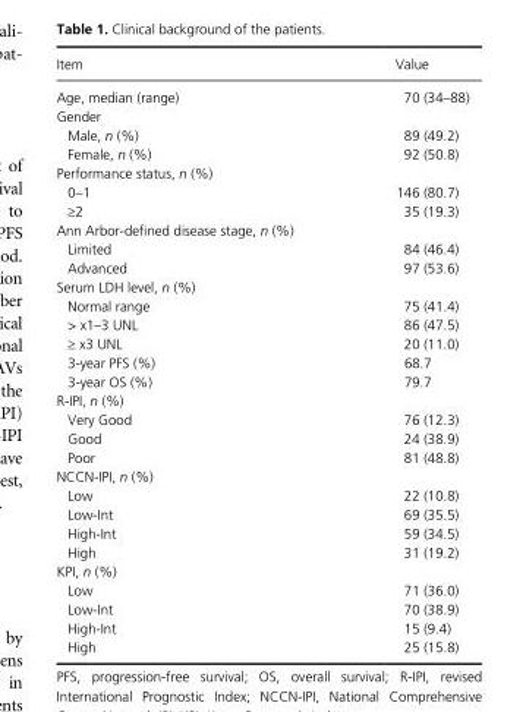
<table><thead><tr><td>Item</td><td>Value</td></tr></thead><tbody><tr><td>Age, median (range)</td><td>70 (34–88)</td></tr><tr><td colspan="2">Gender</td></tr><tr><td>Male, n (%)</td><td>89 (49.2)</td></tr><tr><td>Female, n (%)</td><td>92 (50.8)</td></tr><tr><td colspan="2">Performance status, n (%)</td></tr><tr><td>0–1</td><td>146 (80.7)</td></tr><tr><td>≥2</td><td>35 (19.3)</td></tr><tr><td colspan="2">Ann Arbor- defined disease stage, n (%)</td></tr><tr><td>Limited</td><td>84 (46.4)</td></tr><tr><td>Advanced</td><td>97 (53.6)</td></tr><tr><td colspan="2">Serum LDH level, n (%)</td></tr><tr><td>Normal range</td><td>75 (41.4)</td></tr><tr><td>&gt; x1–3 UNL</td><td>86 (47.5)</td></tr><tr><td>≥ x3 UNL</td><td>20 (11.0)</td></tr><tr><td>3- year PFS (%)</td><td>68.7</td></tr><tr><td>3- year OS (%)</td><td>79.7</td></tr><tr><td colspan="2">R- IPI, n (%)</td></tr><tr><td>Very Good</td><td>76 (12.3)</td></tr><tr><td>Good</td><td>24 (38.9)</td></tr><tr><td>Poor</td><td>81 (48.8)</td></tr><tr><td colspan="2">NCCN- IPI, n (%)</td></tr><tr><td>Low</td><td>22 (10.8)</td></tr><tr><td>Low- Int</td><td>69 (35.5)</td></tr><tr><td>High- Int</td><td>59 (34.5)</td></tr><tr><td>High</td><td>31 (19.2)</td></tr><tr><td colspan="2">KPI, n (%)</td></tr><tr><td>Low</td><td>71 (36.0)</td></tr><tr><td>Low- Int</td><td>70 (38.9)</td></tr><tr><td>High- Int</td><td>15 (9.4)</td></tr><tr><td>High</td><td>25 (15.8)</td></tr></tbody></table>